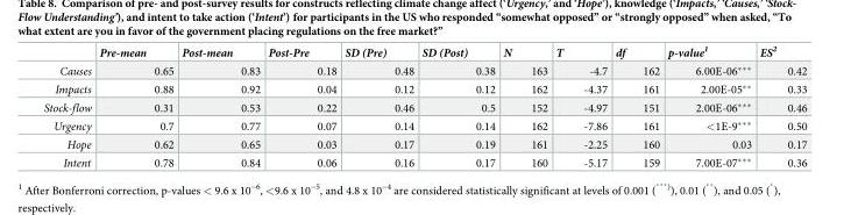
<table><thead><tr><td></td><td>Pre-mean</td><td>Post-mean</td><td>Post-Pre</td><td>SD (Pre)</td><td>SD (Post)</td><td>N</td><td>T</td><td>df</td><td>p-value<sup>1</sup></td><td>ES<sup>2</sup></td></tr></thead><tbody><tr><td>Causes</td><td>0.65</td><td>0.83</td><td>0.18</td><td>0.48</td><td>0.38</td><td>163</td><td>-4.7</td><td>162</td><td>6.00E-06***</td><td>0.42</td></tr><tr><td>Impacts</td><td>0.88</td><td>0.92</td><td>0.04</td><td>0.12</td><td>0.12</td><td>162</td><td>-4.37</td><td>161</td><td>2.00E-05**</td><td>0.33</td></tr><tr><td>Stock-flow</td><td>0.31</td><td>0.53</td><td>0.22</td><td>0.46</td><td>0.5</td><td>152</td><td>-4.97</td><td>151</td><td>2.00E-06***</td><td>0.46</td></tr><tr><td>Urgency</td><td>0.7</td><td>0.77</td><td>0.07</td><td>0.14</td><td>0.14</td><td>162</td><td>-7.86</td><td>161</td><td>&lt;1E-9***</td><td>0.50</td></tr><tr><td>Hope</td><td>0.62</td><td>0.65</td><td>0.03</td><td>0.17</td><td>0.19</td><td>161</td><td>-2.25</td><td>160</td><td>0.03</td><td>0.17</td></tr><tr><td>Intent</td><td>0.78</td><td>0.84</td><td>0.06</td><td>0.16</td><td>0.17</td><td>160</td><td>-5.17</td><td>159</td><td>7.00E-07***</td><td>0.36</td></tr></tbody></table>